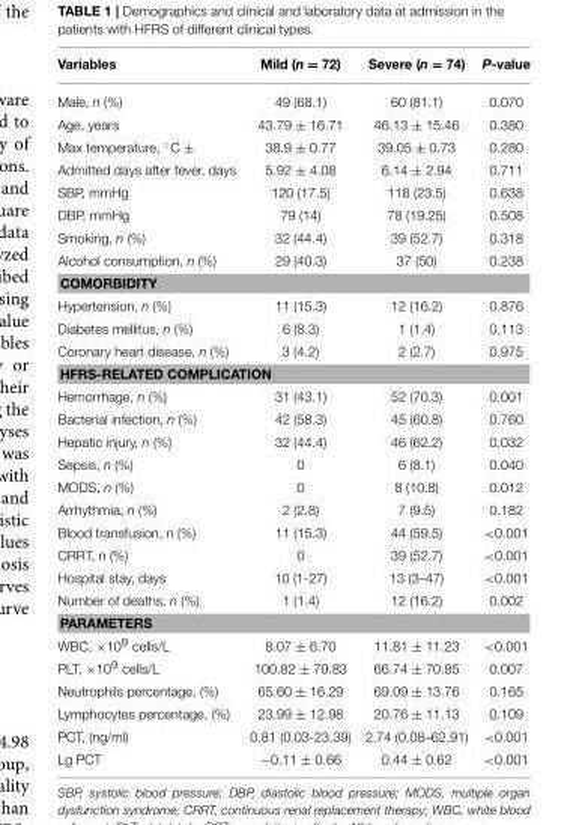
<table><thead><tr><td>Variables</td><td>Mild (n = 72)</td><td>Severe (n = 74)</td><td>P-value</td></tr></thead><tbody><tr><td>Male, n (%)</td><td>49 (68.1)</td><td>60 (81.1)</td><td>0.070</td></tr><tr><td>Age, years</td><td>43.79 ± 16.71</td><td>46.13 ± 15.46</td><td>0.380</td></tr><tr><td>Max temperature, ◦C ±</td><td>38.9 ± 0.77</td><td>39.05 ± 0.73</td><td>0.280</td></tr><tr><td>Admitted days after fever, days</td><td>5.92 ± 4.08</td><td>6.14 ± 2.94</td><td>0.711</td></tr><tr><td>SBP, mmHg</td><td>120 (17.5)</td><td>118 (23.5)</td><td>0.638</td></tr><tr><td>DBP, mmHg</td><td>79 (14)</td><td>78 (19.25)</td><td>0.508</td></tr><tr><td>Smoking, n (%)</td><td>32 (44.4)</td><td>39 (52.7)</td><td>0.318</td></tr><tr><td>Alcohol consumption, n (%)</td><td>29 (40.3)</td><td>37 (50)</td><td>0.238</td></tr><tr><td colspan="4">COMORBIDITY</td></tr><tr><td>Hypertension, n (%)</td><td>11 (15.3)</td><td>12 (16.2)</td><td>0.876</td></tr><tr><td>Diabetes mellitus, n (%)</td><td>6 (8.3)</td><td>1 (1.4)</td><td>0.113</td></tr><tr><td>Coronary heart disease, n (%)</td><td>3 (4.2)</td><td>2 (2.7)</td><td>0.975</td></tr><tr><td colspan="4">HFRS-RELATED COMPLICATION</td></tr><tr><td>Hemorrhage, n (%)</td><td>31 (43.1)</td><td>52 (70.3)</td><td>0.001</td></tr><tr><td>Bacterial infection, n (%)</td><td>42 (58.3)</td><td>45 (60.8)</td><td>0.760</td></tr><tr><td>Hepatic injury, n (%)</td><td>32 (44.4)</td><td>46 (62.2)</td><td>0.032</td></tr><tr><td>Sepsis, n (%)</td><td>0</td><td>6 (8.1)</td><td>0.040</td></tr><tr><td>MODS, n (%)</td><td>0</td><td>8 (10.8)</td><td>0.012</td></tr><tr><td>Arrhythmia, n (%)</td><td>2 (2.8)</td><td>7 (9.5)</td><td>0.182</td></tr><tr><td>Blood transfusion, n (%)</td><td>11 (15.3)</td><td>44 (59.5)</td><td>&lt;0.001</td></tr><tr><td>CRRT, n (%)</td><td>0</td><td>39 (52.7)</td><td>&lt;0.001</td></tr><tr><td>Hospital stay, days</td><td>10 (1-27)</td><td>13 (3–47)</td><td>&lt;0.001</td></tr><tr><td>Number of deaths, n (%)</td><td>1 (1.4)</td><td>12 (16.2)</td><td>0.002</td></tr><tr><td colspan="4">PARAMETERS</td></tr><tr><td>WBC, ×10<sup>9</sup> cells/L</td><td>8.07 ± 6.70</td><td>11.81 ± 11.23</td><td>&lt;0.001</td></tr><tr><td>PLT, ×10<sup>9</sup> cells/L</td><td>100.82 ± 79.83</td><td>66.74 ± 70.85</td><td>0.007</td></tr><tr><td>Neutrophils percentage, (%)</td><td>65.60 ± 16.29</td><td>69.09 ± 13.76</td><td>0.165</td></tr><tr><td>Lymphocytes percentage, (%)</td><td>23.99 ± 12.98</td><td>20.76 ± 11.13</td><td>0.109</td></tr><tr><td>PCT, (ng/ml)</td><td>0.81 (0.03-23.39)</td><td>2.74 (0.08–62.91)</td><td>&lt;0.001</td></tr><tr><td>Lg PCT</td><td>−0.11 ± 0.66</td><td>0.44 ± 0.62</td><td>&lt;0.001</td></tr></tbody></table>